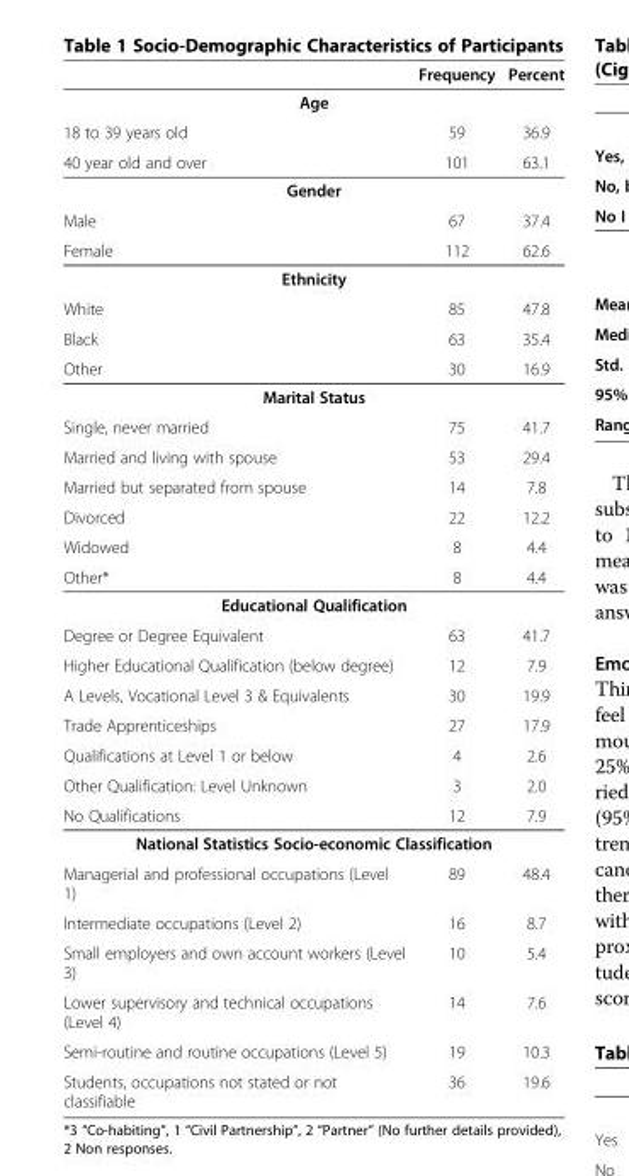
<table><thead><tr><td></td><td>Frequency</td><td>Percent</td></tr></thead><tbody><tr><td colspan="3">Age</td></tr><tr><td>18 to 39 years old</td><td>59</td><td>36.9</td></tr><tr><td>40 year old and over</td><td>101</td><td>63.1</td></tr><tr><td colspan="3">Gender</td></tr><tr><td>Male</td><td>67</td><td>37.4</td></tr><tr><td>Female</td><td>112</td><td>62.6</td></tr><tr><td colspan="3">Ethnicity</td></tr><tr><td>White</td><td>85</td><td>47.8</td></tr><tr><td>Black</td><td>63</td><td>35.4</td></tr><tr><td>Other</td><td>30</td><td>16.9</td></tr><tr><td colspan="3">Marital Status</td></tr><tr><td>Single, never married</td><td>75</td><td>41.7</td></tr><tr><td>Married and living with spouse</td><td>53</td><td>29.4</td></tr><tr><td>Married but separated from spouse</td><td>14</td><td>7.8</td></tr><tr><td>Divorced</td><td>22</td><td>12.2</td></tr><tr><td>Widowed</td><td>8</td><td>4.4</td></tr><tr><td>Other*</td><td>8</td><td>4.4</td></tr><tr><td colspan="3">Educational Qualification</td></tr><tr><td>Degree or Degree Equivalent</td><td>63</td><td>41.7</td></tr><tr><td>Higher Educational Qualification (below degree)</td><td>12</td><td>7.9</td></tr><tr><td>A Levels, Vocational Level 3 &amp; Equivalents</td><td>30</td><td>19.9</td></tr><tr><td>Trade Apprenticeships</td><td>27</td><td>17.9</td></tr><tr><td>Qualifications at Level 1 or below</td><td>4</td><td>2.6</td></tr><tr><td>Other Qualification: Level Unknown</td><td>3</td><td>2.0</td></tr><tr><td>No Qualifications</td><td>12</td><td>7.9</td></tr><tr><td colspan="3">National Statistics Socio-economic Classification</td></tr><tr><td>Managerial and professional occupations (Level 1)</td><td>89</td><td>48.4</td></tr><tr><td>Intermediate occupations (Level 2)</td><td>16</td><td>8.7</td></tr><tr><td>Small employers and own account workers (Level 3)</td><td>10</td><td>5.4</td></tr><tr><td>Lower supervisory and technical occupations (Level 4)</td><td>14</td><td>7.6</td></tr><tr><td>Semi-routine and routine occupations (Level 5)</td><td>19</td><td>10.3</td></tr><tr><td>Students, occupations not stated or not classifiable</td><td>36</td><td>19.6</td></tr></tbody></table>